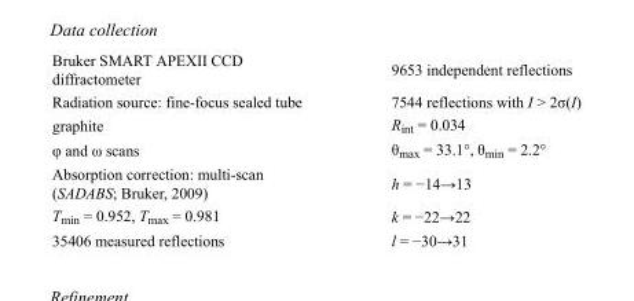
<table><tbody><tr><td>Bruker SMART APEXII CCD diffractometer</td><td>9653 independent reflections</td></tr><tr><td>Radiation source: fine-focus sealed tube</td><td>7544 reflections with I &gt; 2σ(I)</td></tr><tr><td>graphite</td><td>R<sub>int</sub> = 0.034</td></tr><tr><td>φ and ω scans</td><td>θ<sub>max</sub> = 33.1°, θ<sub>min</sub> = 2.2°</td></tr><tr><td>Absorption correction: multi-scan (SADABS; Bruker, 2009)</td><td>h = −14→13</td></tr><tr><td>T<sub>min</sub> = 0.952, T<sub>max</sub> = 0.981</td><td>k = −22→22</td></tr><tr><td>35406 measured reflections</td><td>l = −30→31</td></tr></tbody></table>